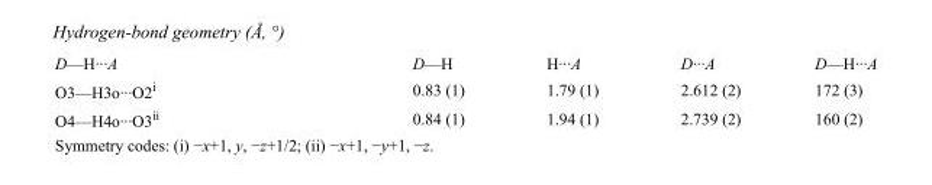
<table><tbody><tr><td>D—H···A</td><td>D—H</td><td>H···A</td><td>D···A</td><td>D—H···A</td></tr><tr><td>O3—H3o···O2<sup>i</sup></td><td>0.83 (1)</td><td>1.79 (1)</td><td>2.612 (2)</td><td>172 (3)</td></tr><tr><td>O4—H4o···O3<sup>ii</sup></td><td>0.84 (1)</td><td>1.94 (1)</td><td>2.739 (2)</td><td>160 (2)</td></tr></tbody></table>